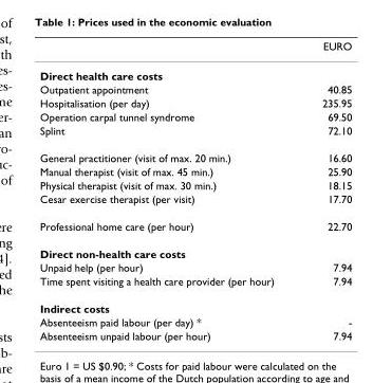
<table><thead><tr><td></td><td>EURO</td></tr></thead><tbody><tr><td colspan="2">Direct health care costs</td></tr><tr><td>Outpatient appointment</td><td>40.85</td></tr><tr><td>Hospitalisation (per day)</td><td>235.95</td></tr><tr><td>Operation carpal tunnel syndrome</td><td>69.50</td></tr><tr><td>Splint</td><td>72.10</td></tr><tr><td>General practitioner (visit of max. 20 min.)</td><td>16.60</td></tr><tr><td>Manual therapist (visit of max. 45 min.)</td><td>25.90</td></tr><tr><td>Physical therapist (visit of max. 30 min.)</td><td>18.15</td></tr><tr><td>Cesar exercise therapist (per visit)</td><td>17.70</td></tr><tr><td>Professional home care (per hour)</td><td>22.70</td></tr><tr><td colspan="2">Direct non-health care costs</td></tr><tr><td>Unpaid help (per hour)</td><td>7.94</td></tr><tr><td>Time spent visiting a health care provider (per hour)</td><td>7.94</td></tr><tr><td colspan="2">Indirect costs</td></tr><tr><td>Absenteeism paid labour (per day) *</td><td>-</td></tr><tr><td>Absenteeism unpaid labour (per hour)</td><td>7.94</td></tr></tbody></table>